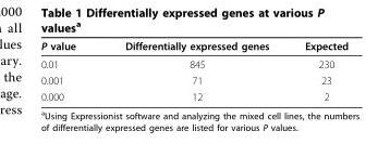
<table><thead><tr><td>P value</td><td>Differentially expressed genes</td><td>Expected</td></tr></thead><tbody><tr><td>0.01</td><td>845</td><td>230</td></tr><tr><td>0.001</td><td>71</td><td>23</td></tr><tr><td>0.000</td><td>12</td><td>2</td></tr></tbody></table>